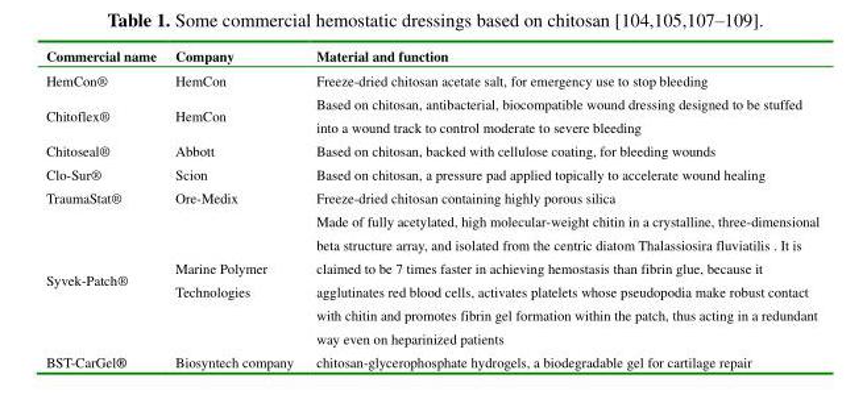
<table><thead><tr><td>Commercial name</td><td>Company</td><td>Material and function</td></tr></thead><tbody><tr><td>HemCon®</td><td>HemCon</td><td>Freeze-dried chitosan acetate salt, for emergency use to stop bleeding</td></tr><tr><td>Chitoflex®</td><td>HemCon</td><td>Based on chitosan, antibacterial, biocompatible wound dressing designed to be stuffed into a wound track to control moderate to severe bleeding</td></tr><tr><td>Chitoseal®</td><td>Abbott</td><td>Based on chitosan, backed with cellulose coating, for bleeding wounds</td></tr><tr><td>Clo-Sur®</td><td>Scion</td><td>Based on chitosan, a pressure pad applied topically to accelerate wound healing</td></tr><tr><td>TraumaStat®</td><td>Ore-Medix</td><td>Freeze-dried chitosan containing highly porous silica</td></tr><tr><td>Syvek-Patch®</td><td>Marine Polymer Technologies</td><td>Made of fully acetylated, high molecular-weight chitin in a crystalline, three-dimensional beta structure array, and isolated from the centric diatom Thalassiosira fluviatilis . It is claimed to be 7 times faster in achieving hemostasis than fibrin glue, because it agglutinates red blood cells, activates platelets whose pseudopodia make robust contact with chitin and promotes fibrin gel formation within the patch, thus acting in a redundant way even on heparinized patients</td></tr><tr><td>BST-CarGel®</td><td>Biosyntech company</td><td>chitosan-glycerophosphate hydrogels, a biodegradable gel for cartilage repair</td></tr></tbody></table>